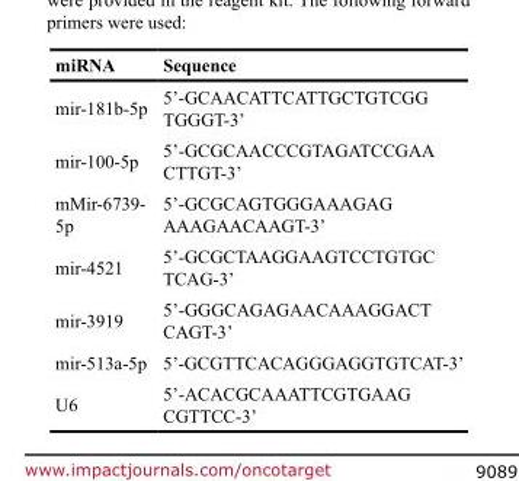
<table><thead><tr><td>miRNA</td><td>Sequence</td></tr></thead><tbody><tr><td>mir-181b-5p</td><td>5’-GCAACATTCATTGCTGTCGG TGGGT-3’</td></tr><tr><td>mir-100-5p</td><td>5’-GCGCAACCCGTAGATCCGAA CTTGT-3’</td></tr><tr><td>mMir-6739- 5p</td><td>5’-GCGCAGTGGGAAAGAG AAAGAACAAGT-3’</td></tr><tr><td>mir-4521</td><td>5’-GCGCTAAGGAAGTCCTGTGC TCAG-3’</td></tr><tr><td>mir-3919</td><td>5’-GGGCAGAGAACAAAGGACT CAGT-3’</td></tr><tr><td>mir-513a-5p</td><td>5’-GCGTTCACAGGGAGGTGTCAT-3’</td></tr><tr><td>U6</td><td>5’-ACACGCAAATTCGTGAAG CGTTCC-3’</td></tr></tbody></table>